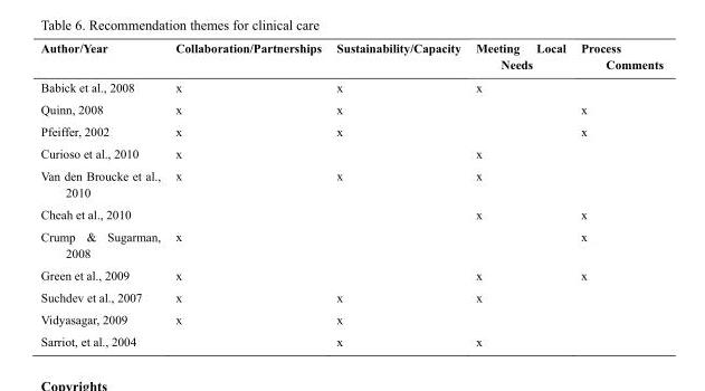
<table><thead><tr><td>Author/Year</td><td>Collaboration/Partnerships</td><td>Sustainability/Capacity</td><td>Meeting Local Needs</td><td>Process Comments</td></tr></thead><tbody><tr><td>Babick et al., 2008</td><td>x</td><td>x</td><td>x</td><td></td></tr><tr><td>Quinn, 2008</td><td>x</td><td>x</td><td></td><td>x</td></tr><tr><td>Pfeiffer, 2002</td><td>x</td><td>x</td><td></td><td>x</td></tr><tr><td>Curioso et al., 2010</td><td>x</td><td></td><td>x</td><td></td></tr><tr><td>Van den Broucke et al., 2010</td><td>x</td><td>x</td><td>x</td><td></td></tr><tr><td>Cheah et al., 2010</td><td></td><td></td><td>x</td><td>x</td></tr><tr><td>Crump &amp; Sugarman, 2008</td><td>x</td><td></td><td></td><td>x</td></tr><tr><td>Green et al., 2009</td><td>x</td><td></td><td>x</td><td>x</td></tr><tr><td>Suchdev et al., 2007</td><td>x</td><td>x</td><td>x</td><td></td></tr><tr><td>Vidyasagar, 2009</td><td>x</td><td>x</td><td></td><td></td></tr><tr><td>Sarriot, et al., 2004</td><td></td><td>x</td><td>x</td><td></td></tr></tbody></table>